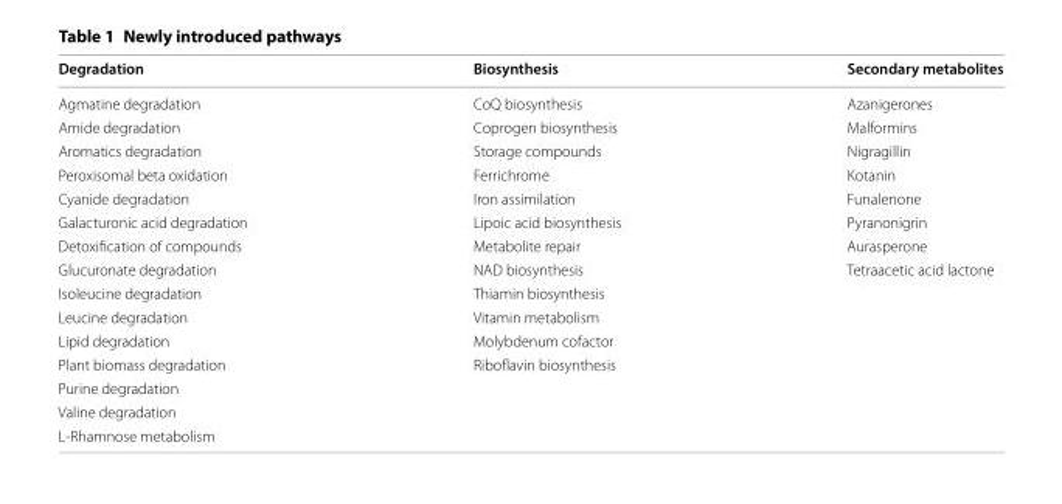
<table><thead><tr><td>Degradation</td><td>Biosynthesis</td><td>Secondary metabolites</td></tr></thead><tbody><tr><td>Agmatine degradation</td><td>CoQ biosynthesis</td><td>Azanigerones</td></tr><tr><td>Amide degradation</td><td>Coprogen biosynthesis</td><td>Malformins</td></tr><tr><td>Aromatics degradation</td><td>Storage compounds</td><td>Nigragillin</td></tr><tr><td>Peroxisomal beta oxidation</td><td>Ferrichrome</td><td>Kotanin</td></tr><tr><td>Cyanide degradation</td><td>Iron assimilation</td><td>Funalenone</td></tr><tr><td>Galacturonic acid degradation</td><td>Lipoic acid biosynthesis</td><td>Pyranonigrin</td></tr><tr><td>Detoxification of compounds</td><td>Metabolite repair</td><td>Aurasperone</td></tr><tr><td>Glucuronate degradation</td><td>NAD biosynthesis</td><td>Tetraacetic acid lactone</td></tr><tr><td>Isoleucine degradation</td><td>Thiamin biosynthesis</td><td></td></tr><tr><td>Leucine degradation</td><td>Vitamin metabolism</td><td></td></tr><tr><td>Lipid degradation</td><td>Molybdenum cofactor</td><td></td></tr><tr><td>Plant biomass degradation</td><td>Riboflavin biosynthesis</td><td></td></tr><tr><td colspan="3">Purine degradation</td></tr><tr><td colspan="3">Valine degradation</td></tr><tr><td>L‑Rhamnose metabolism</td><td></td><td></td></tr></tbody></table>